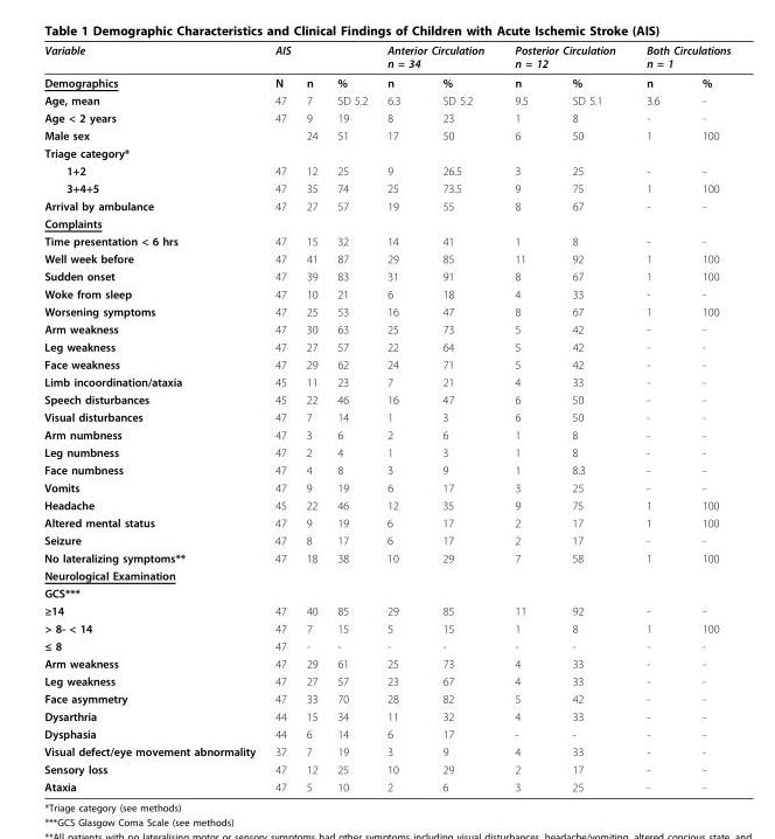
<table><thead><tr><td rowspan="2">Variable Demographics</td><td colspan="3">AIS</td><td colspan="2">Anterior Circulation n = 34</td><td colspan="2">Posterior Circulation n = 12</td><td colspan="2">Both Circulations n = 1</td></tr><tr><td>N</td><td>n</td><td>%</td><td>n</td><td>%</td><td>n</td><td>%</td><td>n</td><td>%</td></tr></thead><tbody><tr><td>Age, mean</td><td>47</td><td>7</td><td>SD 5.2</td><td>6.3</td><td>SD 5.2</td><td>9.5</td><td>SD 5.1</td><td>3.6</td><td>-</td></tr><tr><td>Age &lt; 2 years</td><td>47</td><td>9</td><td>19</td><td>8</td><td>23</td><td>1</td><td>8</td><td>-</td><td>-</td></tr><tr><td>Male sex</td><td></td><td>24</td><td>51</td><td>17</td><td>50</td><td>6</td><td>50</td><td>1</td><td>100</td></tr><tr><td colspan="10">Triage category*</td></tr><tr><td>1+2</td><td>47</td><td>12</td><td>25</td><td>9</td><td>26.5</td><td>3</td><td>25</td><td>-</td><td>-</td></tr><tr><td>3+4+5</td><td>47</td><td>35</td><td>74</td><td>25</td><td>73.5</td><td>9</td><td>75</td><td>1</td><td>100</td></tr><tr><td>Arrival by ambulance</td><td>47</td><td>27</td><td>57</td><td>19</td><td>55</td><td>8</td><td>67</td><td>-</td><td>-</td></tr><tr><td colspan="10">Complaints</td></tr><tr><td>Time presentation &lt; 6 hrs</td><td>47</td><td>15</td><td>32</td><td>14</td><td>41</td><td>1</td><td>8</td><td>-</td><td>-</td></tr><tr><td>Well week before</td><td>47</td><td>41</td><td>87</td><td>29</td><td>85</td><td>11</td><td>92</td><td>1</td><td>100</td></tr><tr><td>Sudden onset</td><td>47</td><td>39</td><td>83</td><td>31</td><td>91</td><td>8</td><td>67</td><td>1</td><td>100</td></tr><tr><td>Woke from sleep</td><td>47</td><td>10</td><td>21</td><td>6</td><td>18</td><td>4</td><td>33</td><td>-</td><td>-</td></tr><tr><td>Worsening symptoms</td><td>47</td><td>25</td><td>53</td><td>16</td><td>47</td><td>8</td><td>67</td><td>1</td><td>100</td></tr><tr><td>Arm weakness</td><td>47</td><td>30</td><td>63</td><td>25</td><td>73</td><td>5</td><td>42</td><td>-</td><td>-</td></tr><tr><td>Leg weakness</td><td>47</td><td>27</td><td>57</td><td>22</td><td>64</td><td>5</td><td>42</td><td>-</td><td>-</td></tr><tr><td>Face weakness</td><td>47</td><td>29</td><td>62</td><td>24</td><td>71</td><td>5</td><td>42</td><td>-</td><td>-</td></tr><tr><td>Limb incoordination/ataxia</td><td>45</td><td>11</td><td>23</td><td>7</td><td>21</td><td>4</td><td>33</td><td>-</td><td>-</td></tr><tr><td>Speech disturbances</td><td>45</td><td>22</td><td>46</td><td>16</td><td>47</td><td>6</td><td>50</td><td>-</td><td>-</td></tr><tr><td>Visual disturbances</td><td>47</td><td>7</td><td>14</td><td>1</td><td>3</td><td>6</td><td>50</td><td>-</td><td>-</td></tr><tr><td>Arm numbness</td><td>47</td><td>3</td><td>6</td><td>2</td><td>6</td><td>1</td><td>8</td><td>-</td><td>-</td></tr><tr><td>Leg numbness</td><td>47</td><td>2</td><td>4</td><td>1</td><td>3</td><td>1</td><td>8</td><td>-</td><td>-</td></tr><tr><td>Face numbness</td><td>47</td><td>4</td><td>8</td><td>3</td><td>9</td><td>1</td><td>8.3</td><td>-</td><td>-</td></tr><tr><td>Vomits</td><td>47</td><td>9</td><td>19</td><td>6</td><td>17</td><td>3</td><td>25</td><td>-</td><td>-</td></tr><tr><td>Headache</td><td>45</td><td>22</td><td>46</td><td>12</td><td>35</td><td>9</td><td>75</td><td>1</td><td>100</td></tr><tr><td>Altered mental status</td><td>47</td><td>9</td><td>19</td><td>6</td><td>17</td><td>2</td><td>17</td><td>1</td><td>100</td></tr><tr><td>Seizure</td><td>47</td><td>8</td><td>17</td><td>6</td><td>17</td><td>2</td><td>17</td><td>-</td><td>-</td></tr><tr><td>No lateralizing symptoms**</td><td>47</td><td>18</td><td>38</td><td>10</td><td>29</td><td>7</td><td>58</td><td>1</td><td>100</td></tr><tr><td colspan="10">Neurological Examination</td></tr><tr><td colspan="10">GCS***</td></tr><tr><td>≥14</td><td>47</td><td>40</td><td>85</td><td>29</td><td>85</td><td>11</td><td>92</td><td>-</td><td>-</td></tr><tr><td>&gt; 8- &lt; 14</td><td>47</td><td>7</td><td>15</td><td>5</td><td>15</td><td>1</td><td>8</td><td>1</td><td>100</td></tr><tr><td>≤ 8</td><td>47</td><td>-</td><td>-</td><td>-</td><td>-</td><td>-</td><td>-</td><td>-</td><td>-</td></tr><tr><td>Arm weakness</td><td>47</td><td>29</td><td>61</td><td>25</td><td>73</td><td>4</td><td>33</td><td>-</td><td>-</td></tr><tr><td>Leg weakness</td><td>47</td><td>27</td><td>57</td><td>23</td><td>67</td><td>4</td><td>33</td><td>-</td><td>-</td></tr><tr><td>Face asymmetry</td><td>47</td><td>33</td><td>70</td><td>28</td><td>82</td><td>5</td><td>42</td><td>-</td><td>-</td></tr><tr><td>Dysarthria</td><td>44</td><td>15</td><td>34</td><td>11</td><td>32</td><td>4</td><td>33</td><td>-</td><td>-</td></tr><tr><td>Dysphasia</td><td>44</td><td>6</td><td>14</td><td>6</td><td>17</td><td>-</td><td>-</td><td>-</td><td>-</td></tr><tr><td>Visual defect/eye movement abnormality</td><td>37</td><td>7</td><td>19</td><td>3</td><td>9</td><td>4</td><td>33</td><td>-</td><td>-</td></tr><tr><td>Sensory loss</td><td>47</td><td>12</td><td>25</td><td>10</td><td>29</td><td>2</td><td>17</td><td>-</td><td>-</td></tr><tr><td>Ataxia</td><td>47</td><td>5</td><td>10</td><td>2</td><td>6</td><td>3</td><td>25</td><td>-</td><td>-</td></tr></tbody></table>